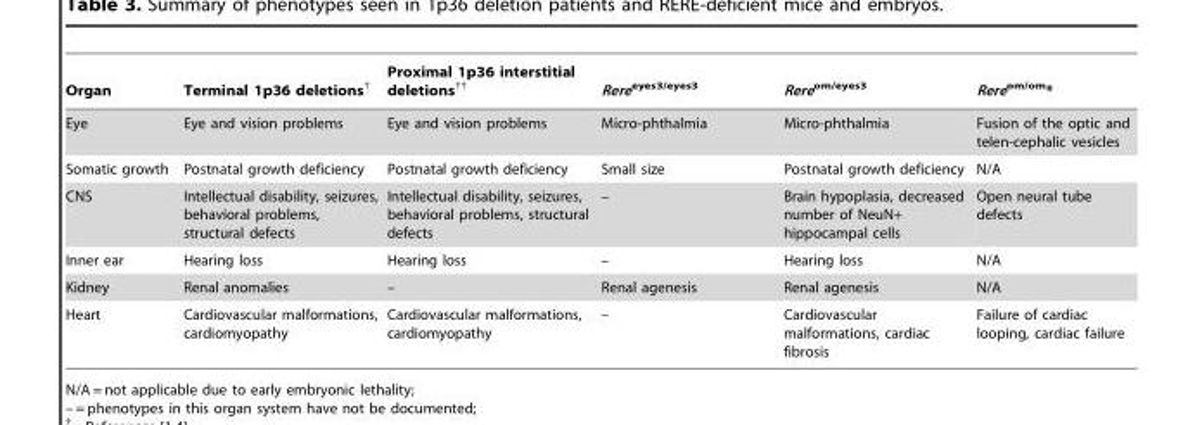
<table><thead><tr><td>Organ</td><td>Terminal 1p36 deletions†</td><td>Proximal 1p36 interstitial deletions††</td><td>Rere<sup>eyes3/eyes3</sup></td><td>Rere<sup>om/eyes3</sup></td><td>Rere<sup>om/om</sup>*</td></tr></thead><tbody><tr><td>Eye</td><td>Eye and vision problems</td><td>Eye and vision problems</td><td>Micro-phthalmia</td><td>Micro-phthalmia</td><td>Fusion of the optic and telen-cephalic vesicles</td></tr><tr><td>Somatic growth</td><td>Postnatal growth deficiency</td><td>Postnatal growth deficiency</td><td>Small size</td><td>Postnatal growth deficiency</td><td>N/A</td></tr><tr><td>CNS</td><td>Intellectual disability, seizures, behavioral problems, structural defects</td><td>Intellectual disability, seizures, behavioral problems, structural defects</td><td>–</td><td>Brain hypoplasia, decreased number of NeuN+ hippocampal cells</td><td>Open neural tube defects</td></tr><tr><td>Inner ear</td><td>Hearing loss</td><td>Hearing loss</td><td>–</td><td>Hearing loss</td><td>N/A</td></tr><tr><td>Kidney</td><td>Renal anomalies</td><td>–</td><td>Renal agenesis</td><td>Renal agenesis</td><td>N/A</td></tr><tr><td>Heart</td><td>Cardiovascular malformations, cardiomyopathy</td><td>Cardiovascular malformations, cardiomyopathy</td><td>–</td><td>Cardiovascular malformations, cardiac fibrosis</td><td>Failure of cardiac looping, cardiac failure</td></tr></tbody></table>